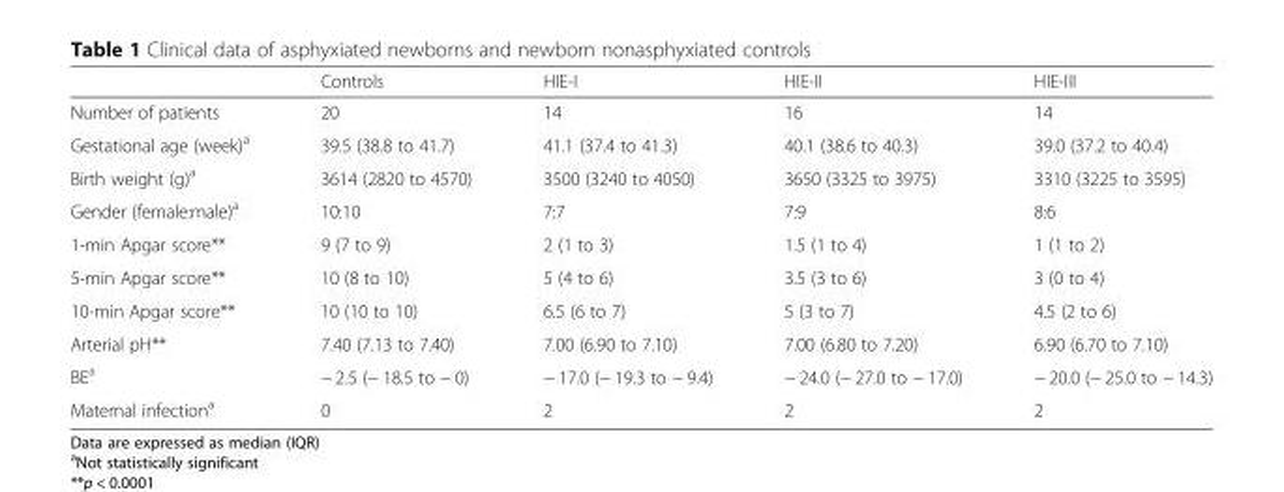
<table><thead><tr><td></td><td>Controls</td><td>HIE-I</td><td>HIE-II</td><td>HIE-III</td></tr></thead><tbody><tr><td>Number of patients</td><td>20</td><td>14</td><td>16</td><td>14</td></tr><tr><td>Gestational age (week)<sup>a</sup></td><td>39.5 (38.8 to 41.7)</td><td>41.1 (37.4 to 41.3)</td><td>40.1 (38.6 to 40.3)</td><td>39.0 (37.2 to 40.4)</td></tr><tr><td>Birth weight (g)<sup>a</sup></td><td>3614 (2820 to 4570)</td><td>3500 (3240 to 4050)</td><td>3650 (3325 to 3975)</td><td>3310 (3225 to 3595)</td></tr><tr><td>Gender (female:male)<sup>a</sup></td><td>10:10</td><td>7:7</td><td>7:9</td><td>8:6</td></tr><tr><td>1-min Apgar score**</td><td>9 (7 to 9)</td><td>2 (1 to 3)</td><td>1.5 (1 to 4)</td><td>1 (1 to 2)</td></tr><tr><td>5-min Apgar score**</td><td>10 (8 to 10)</td><td>5 (4 to 6)</td><td>3.5 (3 to 6)</td><td>3 (0 to 4)</td></tr><tr><td>10-min Apgar score**</td><td>10 (10 to 10)</td><td>6.5 (6 to 7)</td><td>5 (3 to 7)</td><td>4.5 (2 to 6)</td></tr><tr><td>Arterial pH**</td><td>7.40 (7.13 to 7.40)</td><td>7.00 (6.90 to 7.10)</td><td>7.00 (6.80 to 7.20)</td><td>6.90 (6.70 to 7.10)</td></tr><tr><td>BE<sup>a</sup></td><td>− 2.5 (− 18.5 to − 0)</td><td>− 17.0 (− 19.3 to − 9.4)</td><td>− 24.0 (− 27.0 to − 17.0)</td><td>− 20.0 (− 25.0 to − 14.3)</td></tr><tr><td>Maternal infection<sup>a</sup></td><td>0</td><td>2</td><td>2</td><td>2</td></tr></tbody></table>